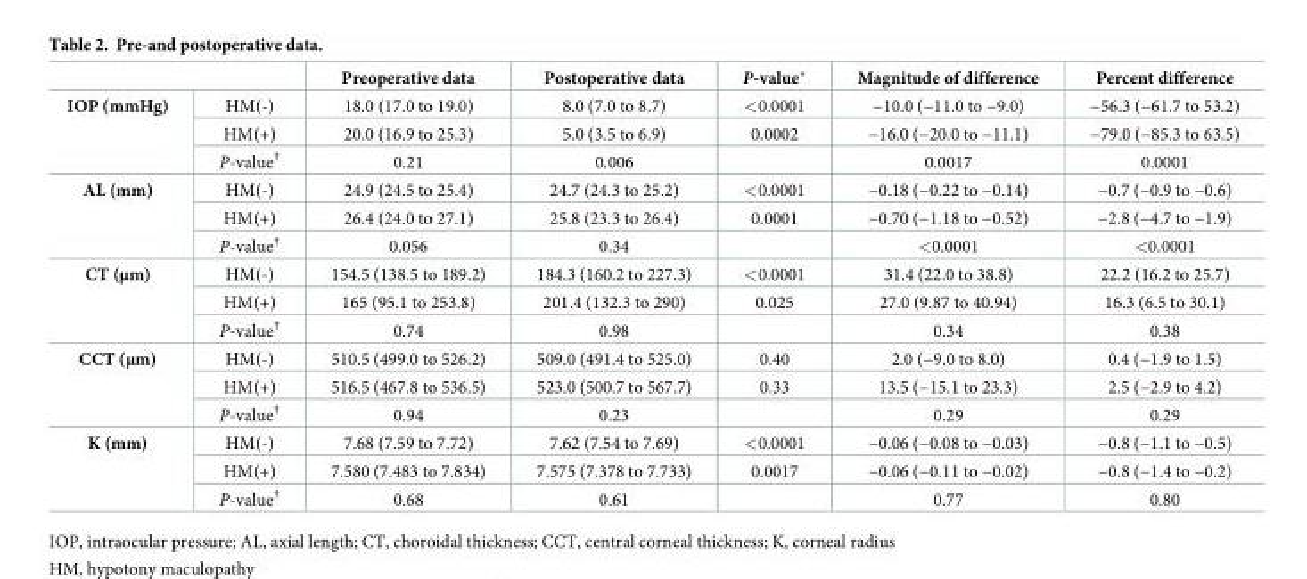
<table><thead><tr><td></td><td></td><td>Preoperative data</td><td>Postoperative data</td><td>P-value*</td><td>Magnitude of difference</td><td>Percent difference</td></tr></thead><tbody><tr><td rowspan="3">IOP (mmHg)</td><td>HM(-)</td><td>18.0 (17.0 to 19.0)</td><td>8.0 (7.0 to 8.7)</td><td>&lt;0.0001</td><td>−10.0 (−11.0 to −9.0)</td><td>−56.3 (−61.7 to 53.2)</td></tr><tr><td>HM(+)</td><td>20.0 (16.9 to 25.3)</td><td>5.0 (3.5 to 6.9)</td><td>0.0002</td><td>−16.0 (−20.0 to −11.1)</td><td>−79.0 (−85.3 to 63.5)</td></tr><tr><td>P-value<sup>†</sup></td><td>0.21</td><td>0.006</td><td></td><td>0.0017</td><td>0.0001</td></tr><tr><td rowspan="3">AL (mm)</td><td>HM(-)</td><td>24.9 (24.5 to 25.4)</td><td>24.7 (24.3 to 25.2)</td><td>&lt;0.0001</td><td>−0.18 (−0.22 to −0.14)</td><td>−0.7 (−0.9 to −0.6)</td></tr><tr><td>HM(+)</td><td>26.4 (24.0 to 27.1)</td><td>25.8 (23.3 to 26.4)</td><td>0.0001</td><td>−0.70 (−1.18 to −0.52)</td><td>−2.8 (−4.7 to −1.9)</td></tr><tr><td>P-value<sup>†</sup></td><td>0.056</td><td>0.34</td><td></td><td>&lt;0.0001</td><td>&lt;0.0001</td></tr><tr><td rowspan="3">CT (μm)</td><td>HM(-)</td><td>154.5 (138.5 to 189.2)</td><td>184.3 (160.2 to 227.3)</td><td>&lt;0.0001</td><td>31.4 (22.0 to 38.8)</td><td>22.2 (16.2 to 25.7)</td></tr><tr><td>HM(+)</td><td>165 (95.1 to 253.8)</td><td>201.4 (132.3 to 290)</td><td>0.025</td><td>27.0 (9.87 to 40.94)</td><td>16.3 (6.5 to 30.1)</td></tr><tr><td>P-value<sup>†</sup></td><td>0.74</td><td>0.98</td><td></td><td>0.34</td><td>0.38</td></tr><tr><td rowspan="3">CCT (μm)</td><td>HM(-)</td><td>510.5 (499.0 to 526.2)</td><td>509.0 (491.4 to 525.0)</td><td>0.40</td><td>2.0 (−9.0 to 8.0)</td><td>0.4 (−1.9 to 1.5)</td></tr><tr><td>HM(+)</td><td>516.5 (467.8 to 536.5)</td><td>523.0 (500.7 to 567.7)</td><td>0.33</td><td>13.5 (−15.1 to 23.3)</td><td>2.5 (−2.9 to 4.2)</td></tr><tr><td>P-value<sup>†</sup></td><td>0.94</td><td>0.23</td><td></td><td>0.29</td><td>0.29</td></tr><tr><td rowspan="3">K (mm)</td><td>HM(-)</td><td>7.68 (7.59 to 7.72)</td><td>7.62 (7.54 to 7.69)</td><td>&lt;0.0001</td><td>−0.06 (−0.08 to −0.03)</td><td>−0.8 (−1.1 to −0.5)</td></tr><tr><td>HM(+)</td><td>7.580 (7.483 to 7.834)</td><td>7.575 (7.378 to 7.733)</td><td>0.0017</td><td>−0.06 (−0.11 to −0.02)</td><td>−0.8 (−1.4 to −0.2)</td></tr><tr><td>P-value<sup>†</sup></td><td>0.68</td><td>0.61</td><td></td><td>0.77</td><td>0.80</td></tr></tbody></table>